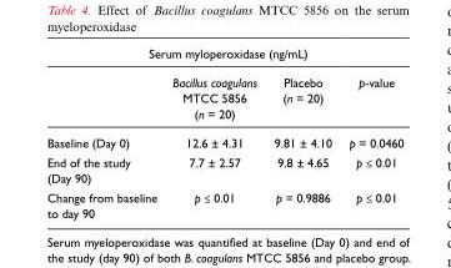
<table><thead><tr><td colspan="4">Serum myloperoxidase (ng/mL)</td></tr><tr><td></td><td>Bacillus coagulans MTCC 5856 (n = 20)</td><td>Placebo (n = 20)</td><td>p-value</td></tr></thead><tbody><tr><td>Baseline (Day 0)</td><td>12.6 ± 4.31</td><td>9.81 ± 4.10</td><td>p = 0.0460</td></tr><tr><td>End of the study (Day 90)</td><td>7.7 ± 2.57</td><td>9.8 ± 4.65</td><td>p ≤ 0.01</td></tr><tr><td>Change from baseline to day 90</td><td>p ≤ 0.01</td><td>p = 0.9886</td><td>p ≤ 0.01</td></tr></tbody></table>